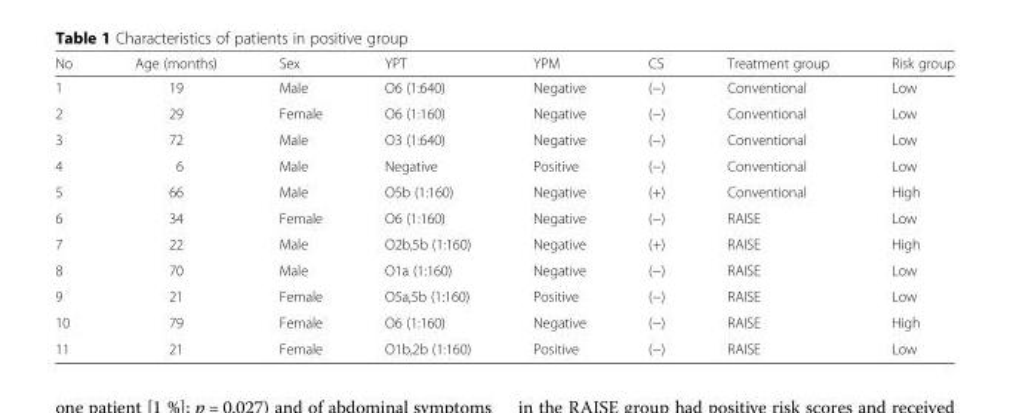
<table><thead><tr><td>No</td><td>Age (months)</td><td>Sex</td><td>YPT</td><td>YPM</td><td>CS</td><td>Treatment group</td><td>Risk group</td></tr></thead><tbody><tr><td>1</td><td>19</td><td>Male</td><td>O6 (1:640)</td><td>Negative</td><td>(−)</td><td>Conventional</td><td>Low</td></tr><tr><td>2</td><td>29</td><td>Female</td><td>O6 (1:160)</td><td>Negative</td><td>(−)</td><td>Conventional</td><td>Low</td></tr><tr><td>3</td><td>72</td><td>Male</td><td>O3 (1:640)</td><td>Negative</td><td>(−)</td><td>Conventional</td><td>Low</td></tr><tr><td>4</td><td>6</td><td>Male</td><td>Negative</td><td>Positive</td><td>(−)</td><td>Conventional</td><td>Low</td></tr><tr><td>5</td><td>66</td><td>Male</td><td>O5b (1:160)</td><td>Negative</td><td>(+)</td><td>Conventional</td><td>High</td></tr><tr><td>6</td><td>34</td><td>Female</td><td>O6 (1:160)</td><td>Negative</td><td>(−)</td><td>RAISE</td><td>Low</td></tr><tr><td>7</td><td>22</td><td>Male</td><td>O2b,5b (1:160)</td><td>Negative</td><td>(+)</td><td>RAISE</td><td>High</td></tr><tr><td>8</td><td>70</td><td>Male</td><td>O1a (1:160)</td><td>Negative</td><td>(−)</td><td>RAISE</td><td>Low</td></tr><tr><td>9</td><td>21</td><td>Female</td><td>O5a,5b (1:160)</td><td>Positive</td><td>(−)</td><td>RAISE</td><td>Low</td></tr><tr><td>10</td><td>79</td><td>Female</td><td>O6 (1:160)</td><td>Negative</td><td>(−)</td><td>RAISE</td><td>High</td></tr><tr><td>11</td><td>21</td><td>Female</td><td>O1b,2b (1:160)</td><td>Positive</td><td>(−)</td><td>RAISE</td><td>Low</td></tr></tbody></table>